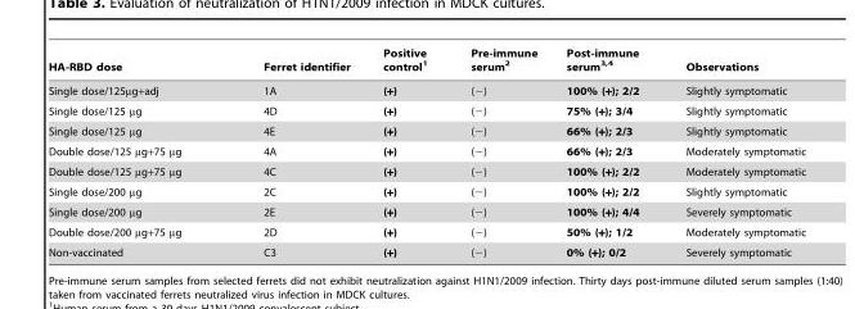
<table><thead><tr><td>HA-RBD dose</td><td>Ferret identifier</td><td>Positive control<sup>1</sup></td><td>Pre-immune serum<sup>2</sup></td><td>Post-immune serum<sup>3,</sup>4</td><td>Observations</td></tr></thead><tbody><tr><td>Single dose/125µg+adj</td><td>1A</td><td>(+)</td><td>(−)</td><td>100% (+); 2/2</td><td>Slightly symptomatic</td></tr><tr><td>Single dose/125 µg</td><td>4D</td><td>(+)</td><td>(−)</td><td>75% (+); 3/4</td><td>Slightly symptomatic</td></tr><tr><td>Single dose/125 µg</td><td>4E</td><td>(+)</td><td>(−)</td><td>66% (+); 2/3</td><td>Slightly symptomatic</td></tr><tr><td>Double dose/125 µg+75 µg</td><td>4A</td><td>(+)</td><td>(−)</td><td>66% (+); 2/3</td><td>Moderately symptomatic</td></tr><tr><td>Double dose/125 µg+75 µg</td><td>4C</td><td>(+)</td><td>(−)</td><td>100% (+); 2/2</td><td>Moderately symptomatic</td></tr><tr><td>Single dose/200 µg</td><td>2C</td><td>(+)</td><td>(−)</td><td>100% (+); 2/2</td><td>Slightly symptomatic</td></tr><tr><td>Single dose/200 µg</td><td>2E</td><td>(+)</td><td>(−)</td><td>100% (+); 4/4</td><td>Severely symptomatic</td></tr><tr><td>Double dose/200 µg+75 µg</td><td>2D</td><td>(+)</td><td>(−)</td><td>50% (+); 1/2</td><td>Moderately symptomatic</td></tr><tr><td>Non-vaccinated</td><td>C3</td><td>(+)</td><td>(−)</td><td>0% (+); 0/2</td><td>Severely symptomatic</td></tr></tbody></table>